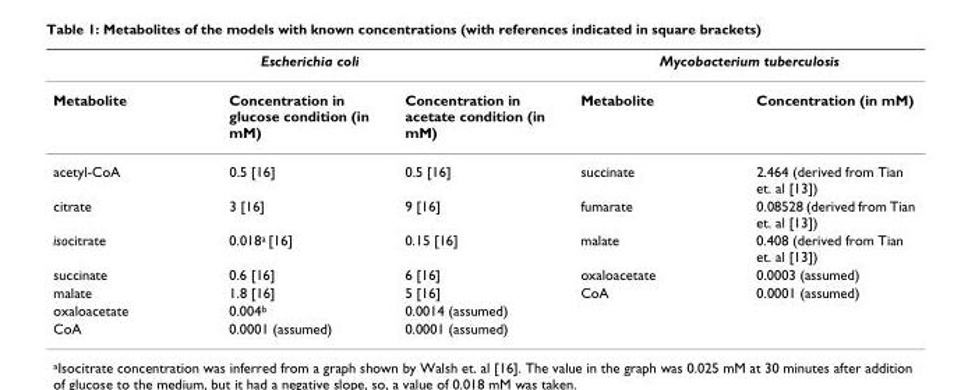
<table><thead><tr><td colspan="3">Escherichia coli</td><td colspan="2">Mycobacterium tuberculosis</td></tr><tr><td>Metabolite</td><td>Concentration in glucose condition (in mM)</td><td>Concentration in acetate condition (in mM)</td><td>Metabolite</td><td>Concentration (in mM)</td></tr></thead><tbody><tr><td>acetyl-CoA</td><td>0.5 [16]</td><td>0.5 [16]</td><td>succinate</td><td>2.464 (derived from Tian et. al [13])</td></tr><tr><td>citrate</td><td>3 [16]</td><td>9 [16]</td><td>fumarate</td><td>0.08528 (derived from Tian et. al [13])</td></tr><tr><td>isocitrate</td><td>0.018<sup>a</sup> [16]</td><td>0.15 [16]</td><td>malate</td><td>0.408 (derived from Tian et. al [13])</td></tr><tr><td>succinate</td><td>0.6 [16]</td><td>6 [16]</td><td>oxaloacetate</td><td>0.0003 (assumed)</td></tr><tr><td>malate</td><td>1.8 [16]</td><td>5 [16]</td><td>CoA</td><td>0.0001 (assumed)</td></tr><tr><td>oxaloacetate</td><td>0.004<sup>b</sup></td><td>0.0014 (assumed)</td><td></td><td></td></tr><tr><td>CoA</td><td>0.0001 (assumed)</td><td>0.0001 (assumed)</td><td></td><td></td></tr></tbody></table>